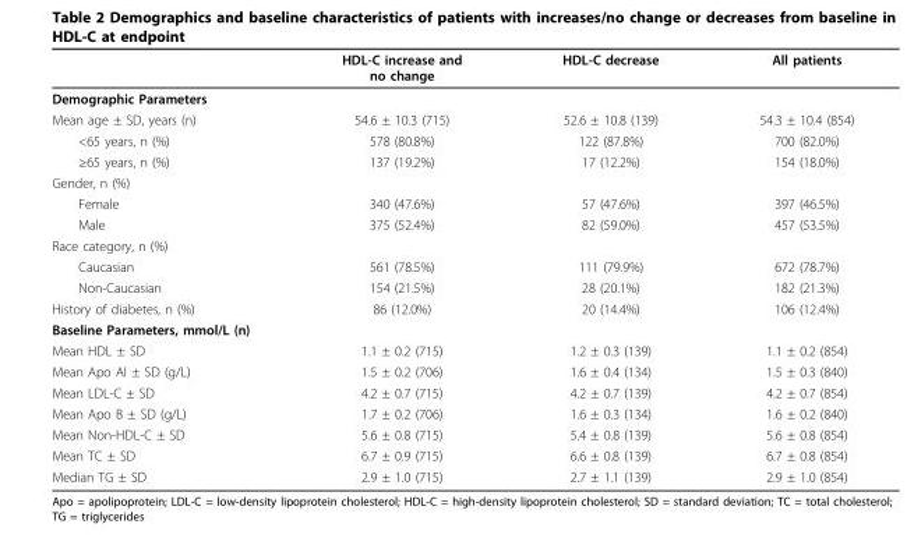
<table><thead><tr><td></td><td>HDL-C increase and no change</td><td>HDL-C decrease</td><td>All patients</td></tr></thead><tbody><tr><td colspan="4">Demographic Parameters</td></tr><tr><td>Mean age ± SD, years (n)</td><td>54.6 ± 10.3 (715)</td><td>52.6 ± 10.8 (139)</td><td>54.3 ± 10.4 (854)</td></tr><tr><td>&lt;65 years, n (%)</td><td>578 (80.8%)</td><td>122 (87.8%)</td><td>700 (82.0%)</td></tr><tr><td>≥65 years, n (%)</td><td>137 (19.2%)</td><td>17 (12.2%)</td><td>154 (18.0%)</td></tr><tr><td colspan="4">Gender, n (%)</td></tr><tr><td>Female</td><td>340 (47.6%)</td><td>57 (47.6%)</td><td>397 (46.5%)</td></tr><tr><td>Male</td><td>375 (52.4%)</td><td>82 (59.0%)</td><td>457 (53.5%)</td></tr><tr><td colspan="4">Race category, n (%)</td></tr><tr><td>Caucasian</td><td>561 (78.5%)</td><td>111 (79.9%)</td><td>672 (78.7%)</td></tr><tr><td>Non-Caucasian</td><td>154 (21.5%)</td><td>28 (20.1%)</td><td>182 (21.3%)</td></tr><tr><td>History of diabetes, n (%)</td><td>86 (12.0%)</td><td>20 (14.4%)</td><td>106 (12.4%)</td></tr><tr><td colspan="4">Baseline Parameters, mmol/L (n)</td></tr><tr><td>Mean HDL ± SD</td><td>1.1 ± 0.2 (715)</td><td>1.2 ± 0.3 (139)</td><td>1.1 ± 0.2 (854)</td></tr><tr><td>Mean Apo AI ± SD (g/L)</td><td>1.5 ± 0.2 (706)</td><td>1.6 ± 0.4 (134)</td><td>1.5 ± 0.3 (840)</td></tr><tr><td>Mean LDL-C ± SD</td><td>4.2 ± 0.7 (715)</td><td>4.2 ± 0.7 (139)</td><td>4.2 ± 0.7 (854)</td></tr><tr><td>Mean Apo B ± SD (g/L)</td><td>1.7 ± 0.2 (706)</td><td>1.6 ± 0.3 (134)</td><td>1.6 ± 0.2 (840)</td></tr><tr><td>Mean Non-HDL-C ± SD</td><td>5.6 ± 0.8 (715)</td><td>5.4 ± 0.8 (139)</td><td>5.6 ± 0.8 (854)</td></tr><tr><td>Mean TC ± SD</td><td>6.7 ± 0.9 (715)</td><td>6.6 ± 0.8 (139)</td><td>6.7 ± 0.8 (854)</td></tr><tr><td>Median TG ± SD</td><td>2.9 ± 1.0 (715)</td><td>2.7 ± 1.1 (139)</td><td>2.9 ± 1.0 (854)</td></tr></tbody></table>